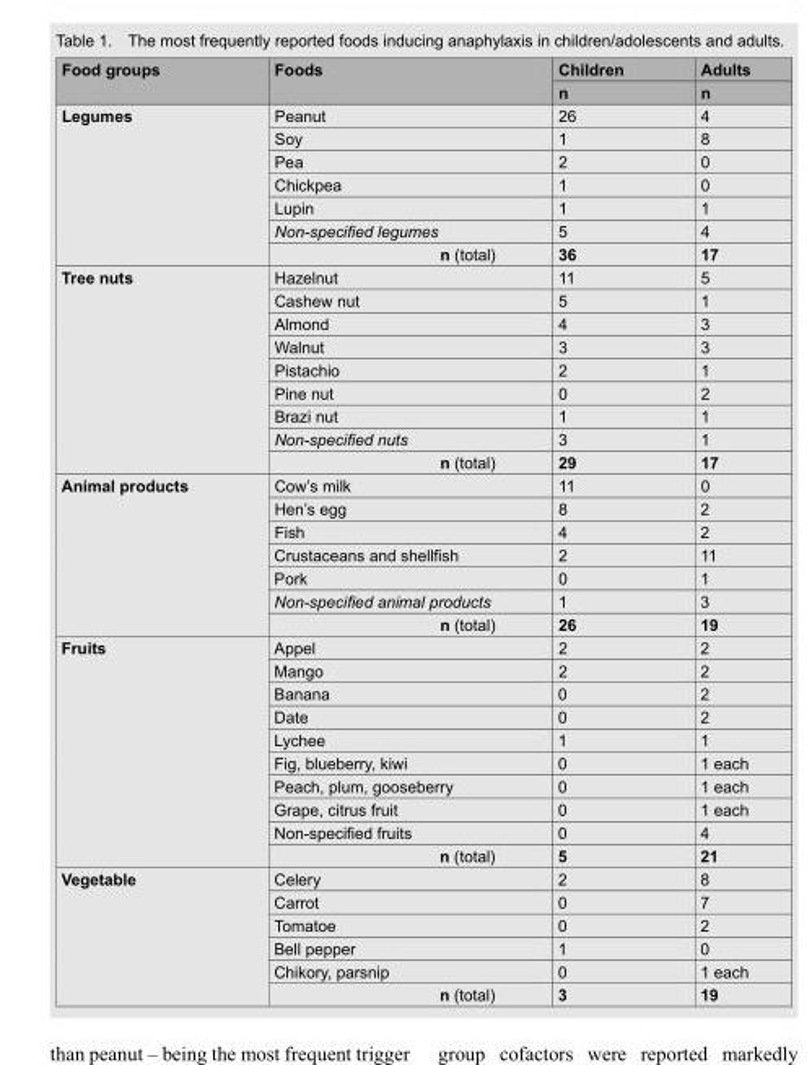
<table><thead><tr><td rowspan="2">Food groups</td><td rowspan="2">Foods</td><td rowspan="2">Children n</td><td rowspan="2">Adults n</td></tr><tr></tr></thead><tbody><tr><td rowspan="7">Legumes</td><td>Peanut</td><td>26</td><td>4</td></tr><tr><td>Soy</td><td>1</td><td>8</td></tr><tr><td>Pea</td><td>2</td><td>0</td></tr><tr><td>Chickpea</td><td>1</td><td>0</td></tr><tr><td>Lupin</td><td>1</td><td>1</td></tr><tr><td>Non-specified legumes</td><td>5</td><td>4</td></tr><tr><td>n (total)</td><td>36</td><td>17</td></tr><tr><td rowspan="9">Tree nuts</td><td>Hazelnut</td><td>11</td><td>5</td></tr><tr><td>Cashew nut</td><td>5</td><td>1</td></tr><tr><td>Almond</td><td>4</td><td>3</td></tr><tr><td>Walnut</td><td>3</td><td>3</td></tr><tr><td>Pistachio</td><td>2</td><td>1</td></tr><tr><td>Pine nut</td><td>0</td><td>2</td></tr><tr><td>Brazi nut</td><td>1</td><td>1</td></tr><tr><td>Non-specified nuts</td><td>3</td><td>1</td></tr><tr><td>n (total)</td><td>29</td><td>17</td></tr><tr><td rowspan="7">Animal products</td><td>Cow’s milk</td><td>11</td><td>0</td></tr><tr><td>Hen’s egg</td><td>8</td><td>2</td></tr><tr><td>Fish</td><td>4</td><td>2</td></tr><tr><td>Crustaceans and shellfish</td><td>2</td><td>11</td></tr><tr><td>Pork</td><td>0</td><td>1</td></tr><tr><td>Non-specified animal products</td><td>1</td><td>3</td></tr><tr><td>n (total)</td><td>26</td><td>19</td></tr><tr><td rowspan="10">Fruits</td><td>Appel</td><td>2</td><td>2</td></tr><tr><td>Mango</td><td>2</td><td>2</td></tr><tr><td>Banana</td><td>0</td><td>2</td></tr><tr><td>Date</td><td>0</td><td>2</td></tr><tr><td>Lychee</td><td>1</td><td>1</td></tr><tr><td>Fig, blueberry, kiwi</td><td>0</td><td>1 each</td></tr><tr><td>Peach, plum, gooseberry</td><td>0</td><td>1 each</td></tr><tr><td>Grape, citrus fruit</td><td>0</td><td>1 each</td></tr><tr><td>Non-specified fruits</td><td>0</td><td>4</td></tr><tr><td>n (total)</td><td>5</td><td>21</td></tr><tr><td rowspan="6">Vegetable</td><td>Celery</td><td>2</td><td>8</td></tr><tr><td>Carrot</td><td>0</td><td>7</td></tr><tr><td>Tomatoe</td><td>0</td><td>2</td></tr><tr><td>Bell pepper</td><td>1</td><td>0</td></tr><tr><td>Chikory, parsnip</td><td>0</td><td>1 each</td></tr><tr><td>n (total)</td><td>3</td><td>19</td></tr></tbody></table>